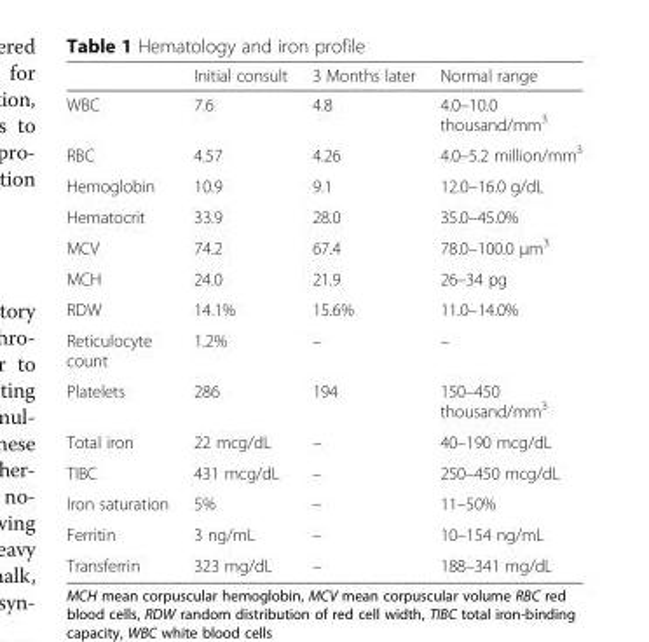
<table><thead><tr><td></td><td>Initial consult</td><td>3 Months later</td><td>Normal range</td></tr></thead><tbody><tr><td>WBC</td><td>7.6</td><td>4.8</td><td>4.0–10.0 thousand/mm<sup>3</sup></td></tr><tr><td>RBC</td><td>4.57</td><td>4.26</td><td>4.0–5.2 million/mm<sup>3</sup></td></tr><tr><td>Hemoglobin</td><td>10.9</td><td>9.1</td><td>12.0–16.0 g/dL</td></tr><tr><td>Hematocrit</td><td>33.9</td><td>28.0</td><td>35.0–45.0%</td></tr><tr><td>MCV</td><td>74.2</td><td>67.4</td><td>78.0–100.0 μm<sup>3</sup></td></tr><tr><td>MCH</td><td>24.0</td><td>21.9</td><td>26–34 pg</td></tr><tr><td>RDW</td><td>14.1%</td><td>15.6%</td><td>11.0–14.0%</td></tr><tr><td>Reticulocyte count</td><td>1.2%</td><td>–</td><td>–</td></tr><tr><td>Platelets</td><td>286</td><td>194</td><td>150–450 thousand/mm<sup>3</sup></td></tr><tr><td>Total iron</td><td>22 mcg/dL</td><td>–</td><td>40–190 mcg/dL</td></tr><tr><td>TIBC</td><td>431 mcg/dL</td><td>–</td><td>250–450 mcg/dL</td></tr><tr><td>Iron saturation</td><td>5%</td><td>–</td><td>11–50%</td></tr><tr><td>Ferritin</td><td>3 ng/mL</td><td>–</td><td>10–154 ng/mL</td></tr><tr><td>Transferrin</td><td>323 mg/dL</td><td>–</td><td>188–341 mg/dL</td></tr></tbody></table>